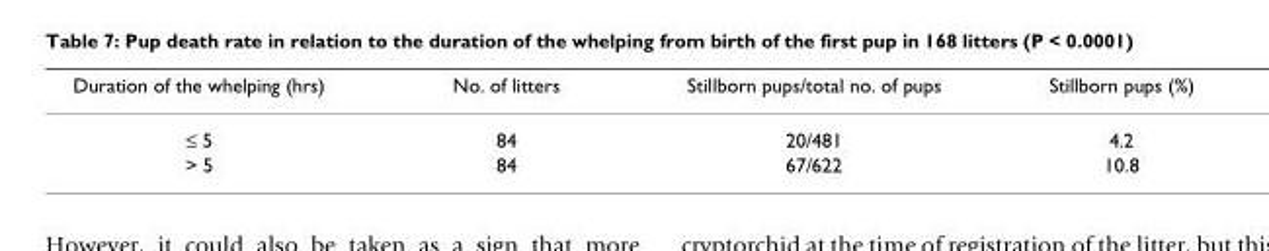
<table><thead><tr><td>Duration of the whelping (hrs)</td><td>No. of litters</td><td>Stillborn pups/total no. of pups</td><td>Stillborn pups (%)</td></tr></thead><tbody><tr><td>≤ 5</td><td>84</td><td>20/481</td><td>4.2</td></tr><tr><td>&gt; 5</td><td>84</td><td>67/622</td><td>10.8</td></tr></tbody></table>